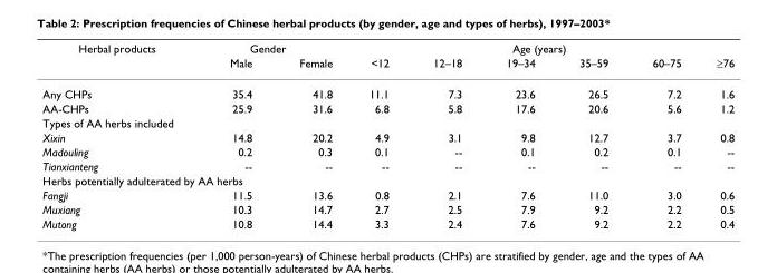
<table><thead><tr><td rowspan="2">Herbal products</td><td colspan="2">Gender</td><td colspan="6">Age (years)</td></tr><tr><td>Male</td><td>Female</td><td>&lt;12</td><td>12–18</td><td>19–34</td><td>35–59</td><td>60–75</td><td>≥76</td></tr></thead><tbody><tr><td>Any CHPs</td><td>35.4</td><td>41.8</td><td>11.1</td><td>7.3</td><td>23.6</td><td>26.5</td><td>7.2</td><td>1.6</td></tr><tr><td>AA-CHPs</td><td>25.9</td><td>31.6</td><td>6.8</td><td>5.8</td><td>17.6</td><td>20.6</td><td>5.6</td><td>1.2</td></tr><tr><td colspan="9">Types of AA herbs included</td></tr><tr><td>Xixin</td><td>14.8</td><td>20.2</td><td>4.9</td><td>3.1</td><td>9.8</td><td>12.7</td><td>3.7</td><td>0.8</td></tr><tr><td>Madouling</td><td>0.2</td><td>0.3</td><td>0.1</td><td>--</td><td>0.1</td><td>0.2</td><td>0.1</td><td>--</td></tr><tr><td>Tianxianteng</td><td>--</td><td>--</td><td>--</td><td>--</td><td>--</td><td>--</td><td>--</td><td>--</td></tr><tr><td colspan="9">Herbs potentially adulterated by AA herbs</td></tr><tr><td>Fangji</td><td>11.5</td><td>13.6</td><td>0.8</td><td>2.1</td><td>7.6</td><td>11.0</td><td>3.0</td><td>0.6</td></tr><tr><td>Muxiang</td><td>10.3</td><td>14.7</td><td>2.7</td><td>2.5</td><td>7.9</td><td>9.2</td><td>2.2</td><td>0.5</td></tr><tr><td>Mutong</td><td>10.8</td><td>14.4</td><td>3.3</td><td>2.4</td><td>7.6</td><td>9.2</td><td>2.2</td><td>0.4</td></tr></tbody></table>